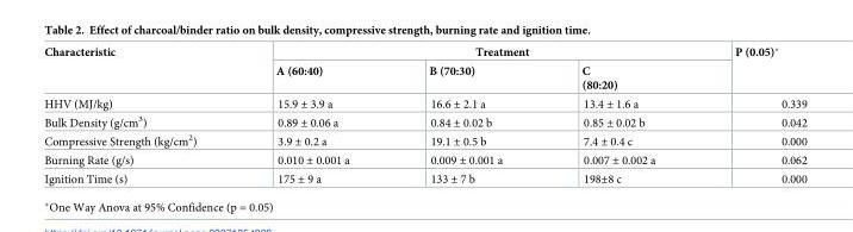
<table><thead><tr><td rowspan="2">Characteristic</td><td colspan="3">Treatment</td><td rowspan="2">P (0.05)*</td></tr><tr><td>A (60:40)</td><td>B (70:30)</td><td>C (80:20)</td></tr></thead><tbody><tr><td>HHV (MJ/kg)</td><td>15.9 ± 3.9 a</td><td>16.6 ± 2.1 a</td><td>13.4 ± 1.6 a</td><td>0.339</td></tr><tr><td>Bulk Density (g/cm<sup>3</sup>)</td><td>0.89 ± 0.06 a</td><td>0.84 ± 0.02 b</td><td>0.85 ± 0.02 b</td><td>0.042</td></tr><tr><td>Compressive Strength (kg/cm<sup>2</sup>)</td><td>3.9 ± 0.2 a</td><td>19.1 ± 0.5 b</td><td>7.4 ± 0.4 c</td><td>0.000</td></tr><tr><td>Burning Rate (g/s)</td><td>0.010 ± 0.001 a</td><td>0.009 ± 0.001 a</td><td>0.007 ± 0.002 a</td><td>0.062</td></tr><tr><td>Ignition Time (s)</td><td>175 ± 9 a</td><td>133 ± 7 b</td><td>198±8 c</td><td>0.000</td></tr></tbody></table>